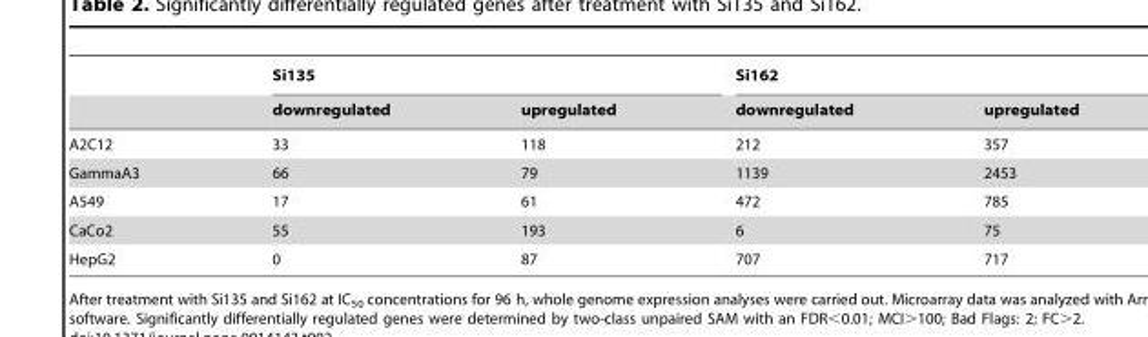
<table><thead><tr><td rowspan="2"></td><td colspan="2">Si135</td><td colspan="2">Si162</td></tr><tr><td>downregulated</td><td>upregulated</td><td>downregulated</td><td>upregulated</td></tr></thead><tbody><tr><td>A2C12</td><td>33</td><td>118</td><td>212</td><td>357</td></tr><tr><td>GammaA3</td><td>66</td><td>79</td><td>1139</td><td>2453</td></tr><tr><td>A549</td><td>17</td><td>61</td><td>472</td><td>785</td></tr><tr><td>CaCo2</td><td>55</td><td>193</td><td>6</td><td>75</td></tr><tr><td>HepG2</td><td>0</td><td>87</td><td>707</td><td>717</td></tr></tbody></table>